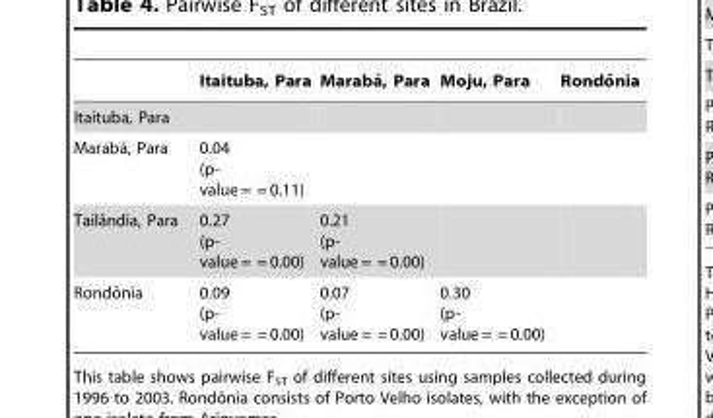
<table><thead><tr><td></td><td>Itaituba, Para</td><td>Maraba´, Para</td><td>Moju, Para</td><td>Rondoˆ nia</td></tr></thead><tbody><tr><td colspan="5">Itaituba, Para</td></tr><tr><td>Maraba´, Para</td><td>0.04 (p- value = = 0.11)</td><td></td><td></td><td></td></tr><tr><td>Tailaˆndia, Para</td><td>0.27 (p- value = = 0.00)</td><td>0.21 (p- value = = 0.00)</td><td></td><td></td></tr><tr><td>Rondoˆnia</td><td>0.09 (p- value = = 0.00)</td><td>0.07 (p- value = = 0.00)</td><td>0.30 (p- value = = 0.00)</td><td></td></tr></tbody></table>